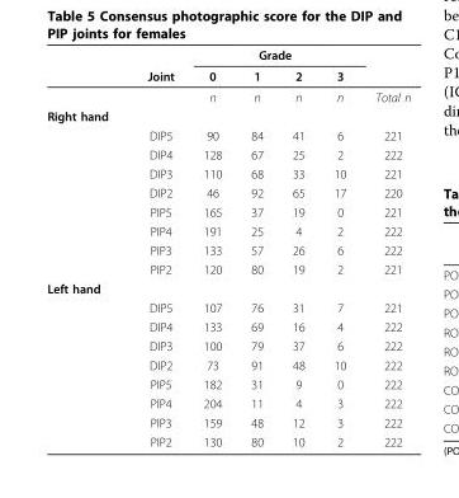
<table><thead><tr><td rowspan="2"></td><td rowspan="2">Joint</td><td colspan="4">Grade</td><td rowspan="2"></td></tr><tr><td>0</td><td>1</td><td>2</td><td>3</td></tr></thead><tbody><tr><td></td><td></td><td>n</td><td>n</td><td>n</td><td>n</td><td>Total n</td></tr><tr><td colspan="7">Right hand</td></tr><tr><td></td><td>DIP5</td><td>90</td><td>84</td><td>41</td><td>6</td><td>221</td></tr><tr><td></td><td>DIP4</td><td>128</td><td>67</td><td>25</td><td>2</td><td>222</td></tr><tr><td></td><td>DIP3</td><td>110</td><td>68</td><td>33</td><td>10</td><td>221</td></tr><tr><td></td><td>DIP2</td><td>46</td><td>92</td><td>65</td><td>17</td><td>220</td></tr><tr><td></td><td>PIP5</td><td>165</td><td>37</td><td>19</td><td>0</td><td>221</td></tr><tr><td></td><td>PIP4</td><td>191</td><td>25</td><td>4</td><td>2</td><td>222</td></tr><tr><td></td><td>PIP3</td><td>133</td><td>57</td><td>26</td><td>6</td><td>222</td></tr><tr><td></td><td>PIP2</td><td>120</td><td>80</td><td>19</td><td>2</td><td>221</td></tr><tr><td colspan="7">Left hand</td></tr><tr><td></td><td>DIP5</td><td>107</td><td>76</td><td>31</td><td>7</td><td>221</td></tr><tr><td></td><td>DIP4</td><td>133</td><td>69</td><td>16</td><td>4</td><td>222</td></tr><tr><td></td><td>DIP3</td><td>100</td><td>79</td><td>37</td><td>6</td><td>222</td></tr><tr><td></td><td>DIP2</td><td>73</td><td>91</td><td>48</td><td>10</td><td>222</td></tr><tr><td></td><td>PIP5</td><td>182</td><td>31</td><td>9</td><td>0</td><td>222</td></tr><tr><td></td><td>PIP4</td><td>204</td><td>11</td><td>4</td><td>3</td><td>222</td></tr><tr><td></td><td>PIP3</td><td>159</td><td>48</td><td>12</td><td>3</td><td>222</td></tr><tr><td></td><td>PIP2</td><td>130</td><td>80</td><td>10</td><td>2</td><td>222</td></tr></tbody></table>